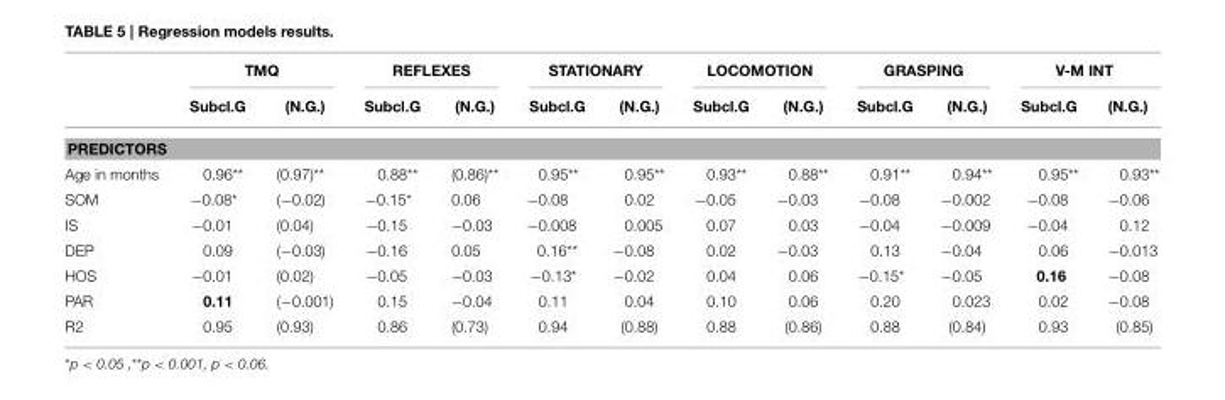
<table><thead><tr><td rowspan="2"></td><td colspan="2">TMQ</td><td colspan="2">REFLEXES</td><td colspan="2">STATIONARY</td><td colspan="2">LOCOMOTION</td><td colspan="2">GRASPING</td><td colspan="2">V-M INT</td></tr><tr><td>Subcl.G</td><td>(N.G.)</td><td>Subcl.G</td><td>(N.G.)</td><td>Subcl.G</td><td>(N.G.)</td><td>Subcl.G</td><td>(N.G.)</td><td>Subcl.G</td><td>(N.G.)</td><td>Subcl.G</td><td>(N.G.)</td></tr></thead><tbody><tr><td colspan="13">PREDICTORS</td></tr><tr><td>Age in months</td><td>0.96**</td><td>(0.97)**</td><td>0.88**</td><td>(0.86)**</td><td>0.95**</td><td>0.95**</td><td>0.93**</td><td>0.88**</td><td>0.91**</td><td>0.94**</td><td>0.95**</td><td>0.93**</td></tr><tr><td>SOM</td><td>−0.08*</td><td>(−0.02)</td><td>−0.15*</td><td>0.06</td><td>−0.08</td><td>0.02</td><td>−0.05</td><td>−0.03</td><td>−0.08</td><td>−0.002</td><td>−0.08</td><td>−0.06</td></tr><tr><td>IS</td><td>−0.01</td><td>(0.04)</td><td>−0.15</td><td>−0.03</td><td>−0.008</td><td>0.005</td><td>0.07</td><td>0.03</td><td>−0.04</td><td>−0.009</td><td>−0.04</td><td>0.12</td></tr><tr><td>DEP</td><td>0.09</td><td>(−0.03)</td><td>−0.16</td><td>0.05</td><td>0.16**</td><td>−0.08</td><td>0.02</td><td>−0.03</td><td>0.13</td><td>−0.04</td><td>0.06</td><td>−0.013</td></tr><tr><td>HOS</td><td>−0.01</td><td>(0.02)</td><td>−0.05</td><td>−0.03</td><td>−0.13*</td><td>−0.02</td><td>0.04</td><td>0.06</td><td>−0.15*</td><td>−0.05</td><td>0.16</td><td>−0.08</td></tr><tr><td>PAR</td><td>0.11</td><td>(−0.001)</td><td>0.15</td><td>−0.04</td><td>0.11</td><td>0.04</td><td>0.10</td><td>0.06</td><td>0.20</td><td>0.023</td><td>0.02</td><td>−0.08</td></tr><tr><td>R2</td><td>0.95</td><td>(0.93)</td><td>0.86</td><td>(0.73)</td><td>0.94</td><td>(0.88)</td><td>0.88</td><td>(0.86)</td><td>0.88</td><td>(0.84)</td><td>0.93</td><td>(0.85)</td></tr></tbody></table>